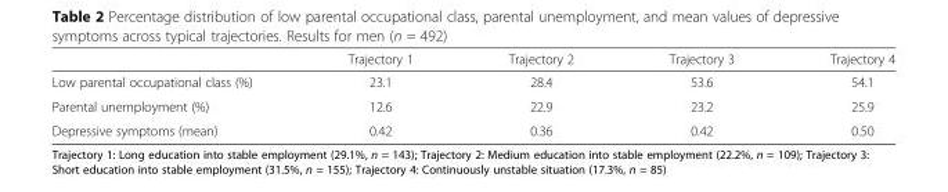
<table><thead><tr><td></td><td>Trajectory 1</td><td>Trajectory 2</td><td>Trajectory 3</td><td>Trajectory 4</td></tr></thead><tbody><tr><td>Low parental occupational class (%)</td><td>23.1</td><td>28.4</td><td>53.6</td><td>54.1</td></tr><tr><td>Parental unemployment (%)</td><td>12.6</td><td>22.9</td><td>23.2</td><td>25.9</td></tr><tr><td>Depressive symptoms (mean)</td><td>0.42</td><td>0.36</td><td>0.42</td><td>0.50</td></tr></tbody></table>